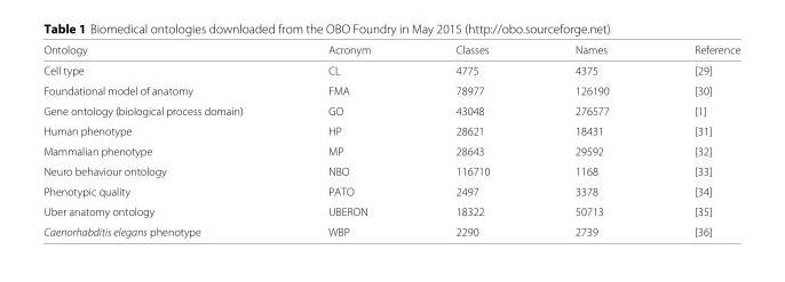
<table><thead><tr><td>Ontology</td><td>Acronym</td><td>Classes</td><td>Names</td><td>Reference</td></tr></thead><tbody><tr><td>Cell type</td><td>CL</td><td>4775</td><td>4375</td><td>[29]</td></tr><tr><td>Foundational model of anatomy</td><td>FMA</td><td>78977</td><td>126190</td><td>[30]</td></tr><tr><td>Gene ontology (biological process domain)</td><td>GO</td><td>43048</td><td>276577</td><td>[1]</td></tr><tr><td>Human phenotype</td><td>HP</td><td>28621</td><td>18431</td><td>[31]</td></tr><tr><td>Mammalian phenotype</td><td>MP</td><td>28643</td><td>29592</td><td>[32]</td></tr><tr><td>Neuro behaviour ontology</td><td>NBO</td><td>116710</td><td>1168</td><td>[33]</td></tr><tr><td>Phenotypic quality</td><td>PATO</td><td>2497</td><td>3378</td><td>[34]</td></tr><tr><td>Uber anatomy ontology</td><td>UBERON</td><td>18322</td><td>50713</td><td>[35]</td></tr><tr><td>Caenorhabditis elegans phenotype</td><td>WBP</td><td>2290</td><td>2739</td><td>[36]</td></tr></tbody></table>